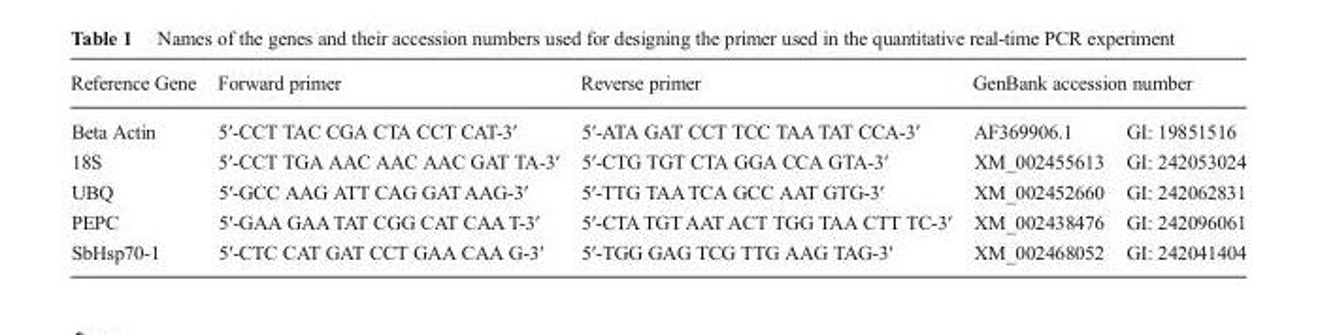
<table><thead><tr><td rowspan="2">Reference Gene Beta Actin</td><td rowspan="2">Forward primer 5′-CCT TAC CGA CTA CCT CAT-3′</td><td rowspan="2">Reverse primer 5′-ATA GAT CCT TCC TAA TAT CCA-3′</td><td colspan="2">GenBank accession number</td></tr><tr><td>AF369906.1</td><td>GI: 19851516</td></tr></thead><tbody><tr><td>18S</td><td>5′-CCT TGA AAC AAC AAC GAT TA-3′</td><td>5′-CTG TGT CTA GGA CCA GTA-3′</td><td>XM_002455613</td><td>GI: 242053024</td></tr><tr><td>UBQ</td><td>5′-GCC AAG ATT CAG GAT AAG-3′</td><td>5′-TTG TAATCA GCC AAT GTG-3′</td><td>XM_002452660</td><td>GI: 242062831</td></tr><tr><td>PEPC</td><td>5′-GAA GAATAT CGG CAT CAA T-3′</td><td>5′-CTA TGT AAT ACT TGG TAA CTT TC-3′</td><td>XM_002438476</td><td>GI: 242096061</td></tr><tr><td>SbHsp70-1</td><td>5′-CTC CAT GAT CCT GAA CAA G-3′</td><td>5′-TGG GAG TCG TTG AAG TAG-3′</td><td>XM_002468052</td><td>GI: 242041404</td></tr></tbody></table>